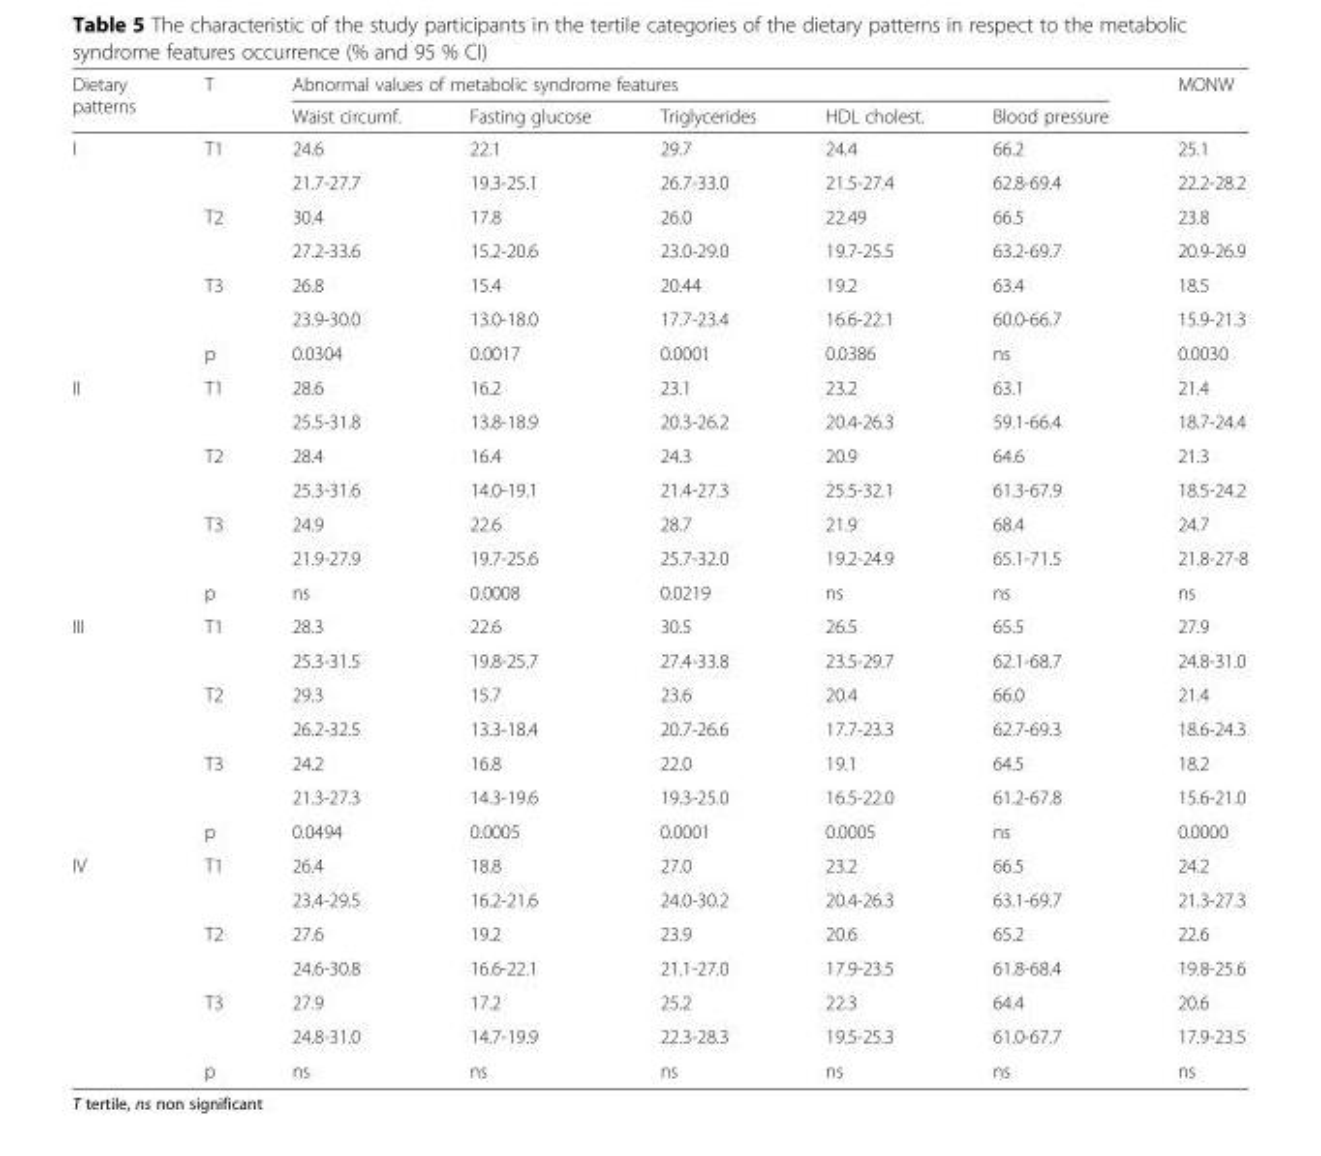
<table><thead><tr><td rowspan="2">Dietary patterns</td><td rowspan="2">T</td><td colspan="5">Abnormal values of metabolic syndrome features</td><td rowspan="2">MONW</td></tr><tr><td>Waist circumf.</td><td>Fasting glucose</td><td>Triglycerides</td><td>HDL cholest.</td><td>Blood pressure</td></tr></thead><tbody><tr><td rowspan="7">I</td><td rowspan="2">T1</td><td>24.6</td><td>22.1</td><td>29.7</td><td>24.4</td><td>66.2</td><td>25.1</td></tr><tr><td>21.7-27.7</td><td>19.3-25.1</td><td>26.7-33.0</td><td>21.5-27.4</td><td>62.8-69.4</td><td>22.2-28.2</td></tr><tr><td rowspan="2">T2</td><td>30.4</td><td>17.8</td><td>26.0</td><td>22.49</td><td>66.5</td><td>23.8</td></tr><tr><td>27.2-33.6</td><td>15.2-20.6</td><td>23.0-29.0</td><td>19.7-25.5</td><td>63.2-69.7</td><td>20.9-26.9</td></tr><tr><td rowspan="2">T3</td><td>26.8</td><td>15.4</td><td>20.44</td><td>19.2</td><td>63.4</td><td>18.5</td></tr><tr><td>23.9-30.0</td><td>13.0-18.0</td><td>17.7-23.4</td><td>16.6-22.1</td><td>60.0-66.7</td><td>15.9-21.3</td></tr><tr><td>p</td><td>0.0304</td><td>0.0017</td><td>0.0001</td><td>0.0386</td><td>ns</td><td>0.0030</td></tr><tr><td rowspan="7">II</td><td rowspan="2">T1</td><td>28.6</td><td>16.2</td><td>23.1</td><td>23.2</td><td>63.1</td><td>21.4</td></tr><tr><td>25.5-31.8</td><td>13.8-18.9</td><td>20.3-26.2</td><td>20.4-26.3</td><td>59.1-66.4</td><td>18.7-24.4</td></tr><tr><td rowspan="2">T2</td><td>28.4</td><td>16.4</td><td>24.3</td><td>20.9</td><td>64.6</td><td>21.3</td></tr><tr><td>25.3-31.6</td><td>14.0-19.1</td><td>21.4-27.3</td><td>25.5-32.1</td><td>61.3-67.9</td><td>18.5-24.2</td></tr><tr><td rowspan="2">T3</td><td>24.9</td><td>22.6</td><td>28.7</td><td>21.9</td><td>68.4</td><td>24.7</td></tr><tr><td>21.9-27.9</td><td>19.7-25.6</td><td>25.7-32.0</td><td>19.2-24.9</td><td>65.1-71.5</td><td>21.8-27-8</td></tr><tr><td>p</td><td>ns</td><td>0.0008</td><td>0.0219</td><td>ns</td><td>ns</td><td>ns</td></tr><tr><td rowspan="7">III</td><td rowspan="2">T1</td><td>28.3</td><td>22.6</td><td>30.5</td><td>26.5</td><td>65.5</td><td>27.9</td></tr><tr><td>25.3-31.5</td><td>19.8-25.7</td><td>27.4-33.8</td><td>23.5-29.7</td><td>62.1-68.7</td><td>24.8-31.0</td></tr><tr><td rowspan="2">T2</td><td>29.3</td><td>15.7</td><td>23.6</td><td>20.4</td><td>66.0</td><td>21.4</td></tr><tr><td>26.2-32.5</td><td>13.3-18.4</td><td>20.7-26.6</td><td>17.7-23.3</td><td>62.7-69.3</td><td>18.6-24.3</td></tr><tr><td rowspan="2">T3</td><td>24.2</td><td>16.8</td><td>22.0</td><td>19.1</td><td>64.5</td><td>18.2</td></tr><tr><td>21.3-27.3</td><td>14.3-19.6</td><td>19.3-25.0</td><td>16.5-22.0</td><td>61.2-67.8</td><td>15.6-21.0</td></tr><tr><td>p</td><td>0.0494</td><td>0.0005</td><td>0.0001</td><td>0.0005</td><td>ns</td><td>0.0000</td></tr><tr><td rowspan="7">IV</td><td rowspan="2">T1</td><td>26.4</td><td>18.8</td><td>27.0</td><td>23.2</td><td>66.5</td><td>24.2</td></tr><tr><td>23.4-29.5</td><td>16.2-21.6</td><td>24.0-30.2</td><td>20.4-26.3</td><td>63.1-69.7</td><td>21.3-27.3</td></tr><tr><td rowspan="2">T2</td><td>27.6</td><td>19.2</td><td>23.9</td><td>20.6</td><td>65.2</td><td>22.6</td></tr><tr><td>24.6-30.8</td><td>16.6-22.1</td><td>21.1-27.0</td><td>17.9-23.5</td><td>61.8-68.4</td><td>19.8-25.6</td></tr><tr><td rowspan="2">T3</td><td>27.9</td><td>17.2</td><td>25.2</td><td>22.3</td><td>64.4</td><td>20.6</td></tr><tr><td>24.8-31.0</td><td>14.7-19.9</td><td>22.3-28.3</td><td>19.5-25.3</td><td>61.0-67.7</td><td>17.9-23.5</td></tr><tr><td>p</td><td>ns</td><td>ns</td><td>ns</td><td>ns</td><td>ns</td><td>ns</td></tr></tbody></table>